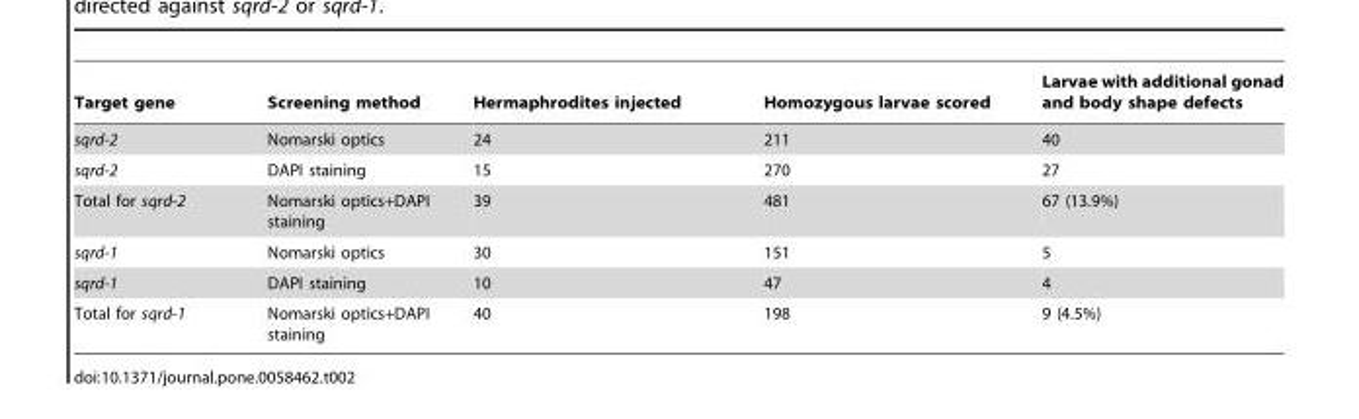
<table><thead><tr><td>Target gene</td><td>Screening method</td><td>Hermaphrodites injected</td><td>Homozygous larvae scored</td><td>Larvae with additional gonad and body shape defects</td></tr></thead><tbody><tr><td>sqrd-2</td><td>Nomarski optics</td><td>24</td><td>211</td><td>40</td></tr><tr><td>sqrd-2</td><td>DAPI staining</td><td>15</td><td>270</td><td>27</td></tr><tr><td>Total for sqrd-2</td><td>Nomarski optics+DAPI staining</td><td>39</td><td>481</td><td>67 (13.9%)</td></tr><tr><td>sqrd-1</td><td>Nomarski optics</td><td>30</td><td>151</td><td>5</td></tr><tr><td>sqrd-1</td><td>DAPI staining</td><td>10</td><td>47</td><td>4</td></tr><tr><td>Total for sqrd-1</td><td>Nomarski optics+DAPI staining</td><td>40</td><td>198</td><td>9 (4.5%)</td></tr></tbody></table>